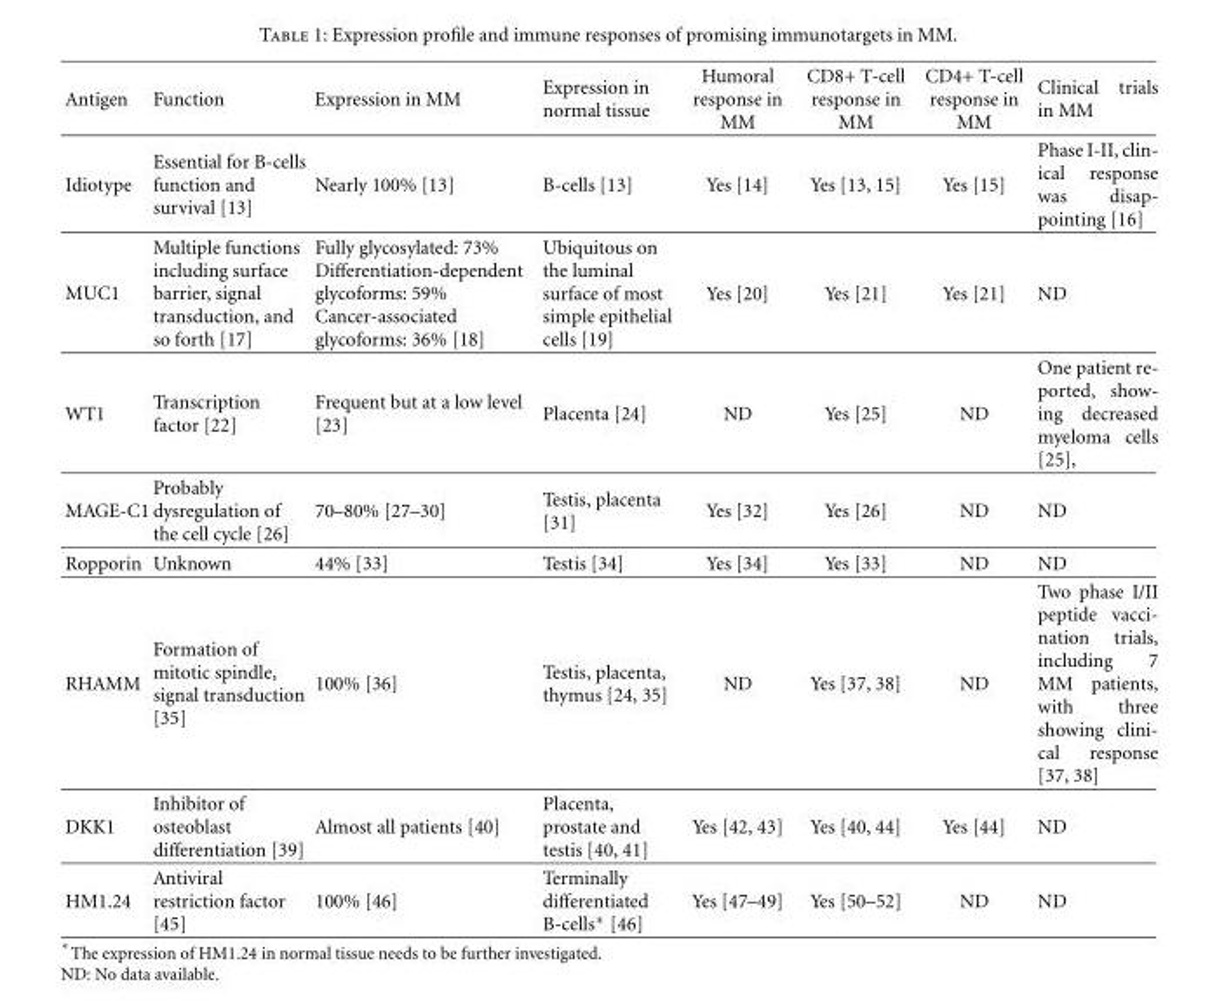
<table><thead><tr><td>Antigen</td><td>Function</td><td>Expression in MM</td><td>Expression in normal tissue</td><td>Humoral response in MM</td><td>CD8+ T-cell response in MM</td><td>CD4+ T-cell response in MM</td><td>Clinical trials in MM</td></tr></thead><tbody><tr><td>Idiotype</td><td>Essential for B-cells function and survival [13]</td><td>Nearly 100% [13]</td><td>B-cells [13]</td><td>Yes [14]</td><td>Yes [13, 15]</td><td>Yes [15]</td><td>Phase I-II, clin- ical response was disap- pointing [16]</td></tr><tr><td>MUC1</td><td>Multiple functions including surface barrier, signal transduction, and so forth [17]</td><td>Fully glycosylated: 73% Differentiation-dependent glycoforms: 59% Cancer-associated glycoforms: 36% [18]</td><td>Ubiquitous on the luminal surface of most simple epithelial cells [19]</td><td>Yes [20]</td><td>Yes [21]</td><td>Yes [21]</td><td>ND</td></tr><tr><td>WT1</td><td>Transcription factor [22]</td><td>Frequent but at a low level [23]</td><td>Placenta [24]</td><td>ND</td><td>Yes [25]</td><td>ND</td><td>One patient re- ported, show- ing decreased myeloma cells [25],</td></tr><tr><td>MAGE-C1</td><td>Probably dysregulation of the cell cycle [26]</td><td>70–80% [27–30]</td><td>Testis, placenta [31]</td><td>Yes [32]</td><td>Yes [26]</td><td>ND</td><td>ND</td></tr><tr><td>Ropporin</td><td>Unknown</td><td>44% [33]</td><td>Testis [34]</td><td>Yes [34]</td><td>Yes [33]</td><td>ND</td><td>ND</td></tr><tr><td>RHAMM</td><td>Formation of mitotic spindle, signal transduction [35]</td><td>100% [36]</td><td>Testis, placenta, thymus [24, 35]</td><td>ND</td><td>Yes [37, 38]</td><td>ND</td><td>Two phase I/II peptide vacci- nation trials, including 7 MM patients, with three showing clini- cal response [37, 38]</td></tr><tr><td>DKK1</td><td>Inhibitor of osteoblast differentiation [39]</td><td>Almost all patients [40]</td><td>Placenta, prostate and testis [40, 41]</td><td>Yes [42, 43]</td><td>Yes [40, 44]</td><td>Yes [44]</td><td>ND</td></tr><tr><td>HM1.24</td><td>Antiviral restriction factor [45]</td><td>100% [46]</td><td>Terminally differentiated B-cells∗ [46]</td><td>Yes [47–49]</td><td>Yes [50–52]</td><td>ND</td><td>ND</td></tr></tbody></table>